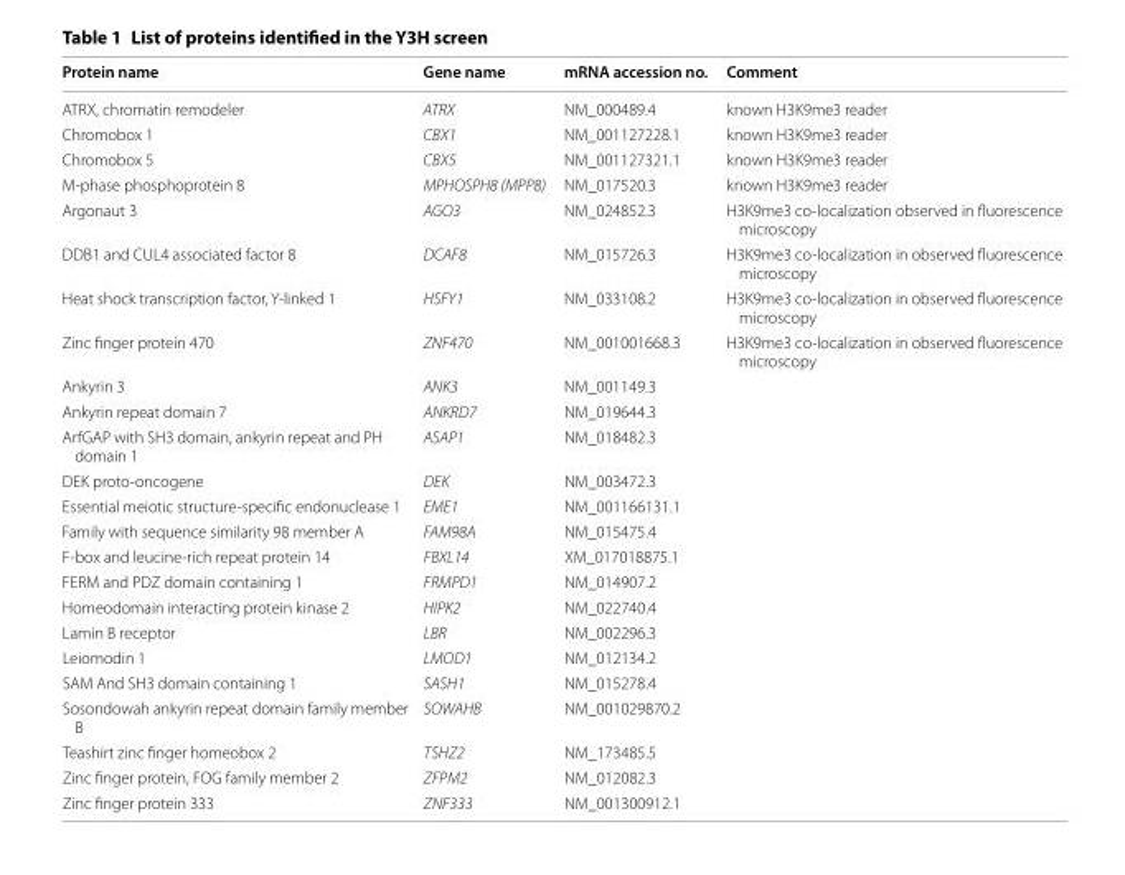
<table><thead><tr><td>Protein name</td><td>Gene name</td><td>mRNA accession no.</td><td>Comment</td></tr></thead><tbody><tr><td>ATRX, chromatin remodeler</td><td>ATRX</td><td>NM_000489.4</td><td>known H3K9me3 reader</td></tr><tr><td>Chromobox 1</td><td>CBX1</td><td>NM_001127228.1</td><td>known H3K9me3 reader</td></tr><tr><td>Chromobox 5</td><td>CBX5</td><td>NM_001127321.1</td><td>known H3K9me3 reader</td></tr><tr><td>M‑phase phosphoprotein 8</td><td>MPHOSPH8 (MPP8)</td><td>NM_017520.3</td><td>known H3K9me3 reader</td></tr><tr><td>Argonaut 3</td><td>AGO3</td><td>NM_024852.3</td><td>H3K9me3 co‑localization observed in fluorescence microscopy</td></tr><tr><td>DDB1 and CUL4 associated factor 8</td><td>DCAF8</td><td>NM_015726.3</td><td>H3K9me3 co‑localization in observed fluorescence microscopy</td></tr><tr><td>Heat shock transcription factor, Y‑linked 1</td><td>HSFY1</td><td>NM_033108.2</td><td>H3K9me3 co‑localization in observed fluorescence microscopy</td></tr><tr><td>Zinc finger protein 470</td><td>ZNF470</td><td>NM_001001668.3</td><td>H3K9me3 co‑localization in observed fluorescence microscopy</td></tr><tr><td>Ankyrin 3</td><td>ANK3</td><td>NM_001149.3</td><td></td></tr><tr><td>Ankyrin repeat domain 7</td><td>ANKRD7</td><td>NM_019644.3</td><td></td></tr><tr><td>ArfGAP with SH3 domain, ankyrin repeat and PH domain 1</td><td>ASAP1</td><td>NM_018482.3</td><td></td></tr><tr><td>DEK proto‑oncogene</td><td>DEK</td><td>NM_003472.3</td><td></td></tr><tr><td>Essential meiotic structure‑specific endonuclease 1</td><td>EME1</td><td>NM_001166131.1</td><td></td></tr><tr><td>Family with sequence similarity 98 member A</td><td>FAM98A</td><td>NM_015475.4</td><td></td></tr><tr><td>F‑box and leucine‑rich repeat protein 14</td><td>FBXL14</td><td>XM_017018875.1</td><td></td></tr><tr><td>FERM and PDZ domain containing 1</td><td>FRMPD1</td><td>NM_014907.2</td><td></td></tr><tr><td>Homeodomain interacting protein kinase 2</td><td>HIPK2</td><td>NM_022740.4</td><td></td></tr><tr><td>Lamin B receptor</td><td>LBR</td><td>NM_002296.3</td><td></td></tr><tr><td>Leiomodin 1</td><td>LMOD1</td><td>NM_012134.2</td><td></td></tr><tr><td>SAM And SH3 domain containing 1</td><td>SASH1</td><td>NM_015278.4</td><td></td></tr><tr><td>Sosondowah ankyrin repeat domain family member B</td><td>SOWAHB</td><td>NM_001029870.2</td><td></td></tr><tr><td>Teashirt zinc finger homeobox 2</td><td>TSHZ2</td><td>NM_173485.5</td><td></td></tr><tr><td>Zinc finger protein, FOG family member 2</td><td>ZFPM2</td><td>NM_012082.3</td><td></td></tr><tr><td>Zinc finger protein 333</td><td>ZNF333</td><td>NM_001300912.1</td><td></td></tr></tbody></table>